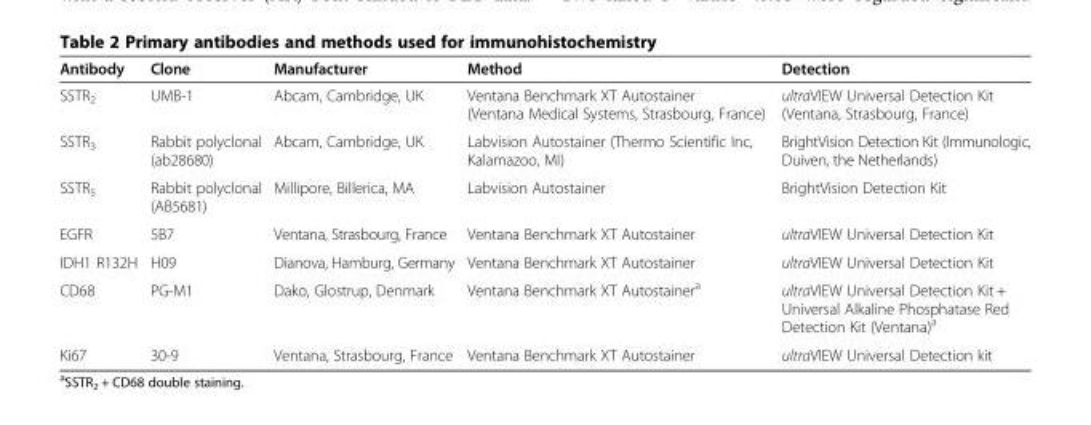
<table><thead><tr><td>Antibody</td><td>Clone</td><td>Manufacturer</td><td>Method</td><td>Detection</td></tr></thead><tbody><tr><td>SSTR<sub>2</sub></td><td>UMB-1</td><td>Abcam, Cambridge, UK</td><td>Ventana Benchmark XT Autostainer (Ventana Medical Systems, Strasbourg, France)</td><td>ultraVIEW Universal Detection Kit (Ventana, Strasbourg, France)</td></tr><tr><td>SSTR<sub>3</sub></td><td>Rabbit polyclonal (ab28680)</td><td>Abcam, Cambridge, UK</td><td>Labvision Autostainer (Thermo Scientific Inc, Kalamazoo, MI)</td><td>BrightVision Detection Kit (Immunologic, Duiven, the Netherlands)</td></tr><tr><td>SSTR<sub>5</sub></td><td>Rabbit polyclonal (AB5681)</td><td>Millipore, Billerica, MA</td><td>Labvision Autostainer</td><td>BrightVision Detection Kit</td></tr><tr><td>EGFR</td><td>5B7</td><td>Ventana, Strasbourg, France</td><td>Ventana Benchmark XT Autostainer</td><td>ultraVIEW Universal Detection Kit</td></tr><tr><td>IDH1 R132H</td><td>H09</td><td>Dianova, Hamburg, Germany</td><td>Ventana Benchmark XT Autostainer</td><td>ultraVIEW Universal Detection Kit</td></tr><tr><td>CD68</td><td>PG-M1</td><td>Dako, Glostrup, Denmark</td><td>Ventana Benchmark XT Autostainer<sup>a</sup></td><td>ultraVIEW Universal Detection Kit + Universal Alkaline Phosphatase Red Detection Kit (Ventana)<sup>a</sup></td></tr><tr><td>Ki67</td><td>30-9</td><td>Ventana, Strasbourg, France</td><td>Ventana Benchmark XT Autostainer</td><td>ultraVIEW Universal Detection kit</td></tr></tbody></table>